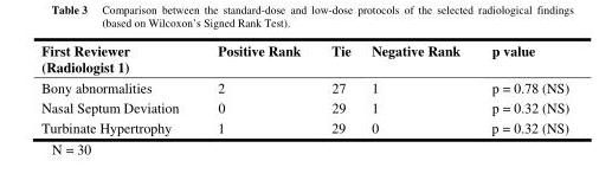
<table><thead><tr><td>First Reviewer (Radiologist 1)</td><td>Positive Rank</td><td>Tie</td><td>Negative Rank</td><td>p value</td></tr></thead><tbody><tr><td>Bony abnormalities</td><td>2</td><td>27</td><td>1</td><td>p = 0.78 (NS)</td></tr><tr><td>Nasal Septum Deviation</td><td>0</td><td>29</td><td>1</td><td>p = 0.32 (NS)</td></tr><tr><td>Turbinate Hypertrophy</td><td>1</td><td>29</td><td>0</td><td>p = 0.32 (NS)</td></tr></tbody></table>